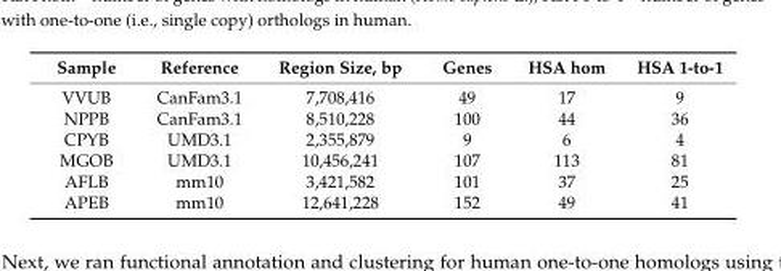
<table><thead><tr><td>Sample</td><td>Reference</td><td>Region Size, bp</td><td>Genes</td><td>HSA hom</td><td>HSA 1-to-1</td></tr></thead><tbody><tr><td>VVUB</td><td>CanFam3.1</td><td>7,708,416</td><td>49</td><td>17</td><td>9</td></tr><tr><td>NPPB</td><td>CanFam3.1</td><td>8,510,228</td><td>100</td><td>44</td><td>36</td></tr><tr><td>CPYB</td><td>UMD3.1</td><td>2,355,879</td><td>9</td><td>6</td><td>4</td></tr><tr><td>MGOB</td><td>UMD3.1</td><td>10,456,241</td><td>107</td><td>113</td><td>81</td></tr><tr><td>AFLB</td><td>mm10</td><td>3,421,582</td><td>101</td><td>37</td><td>25</td></tr><tr><td>APEB</td><td>mm10</td><td>12,641,228</td><td>152</td><td>49</td><td>41</td></tr></tbody></table>